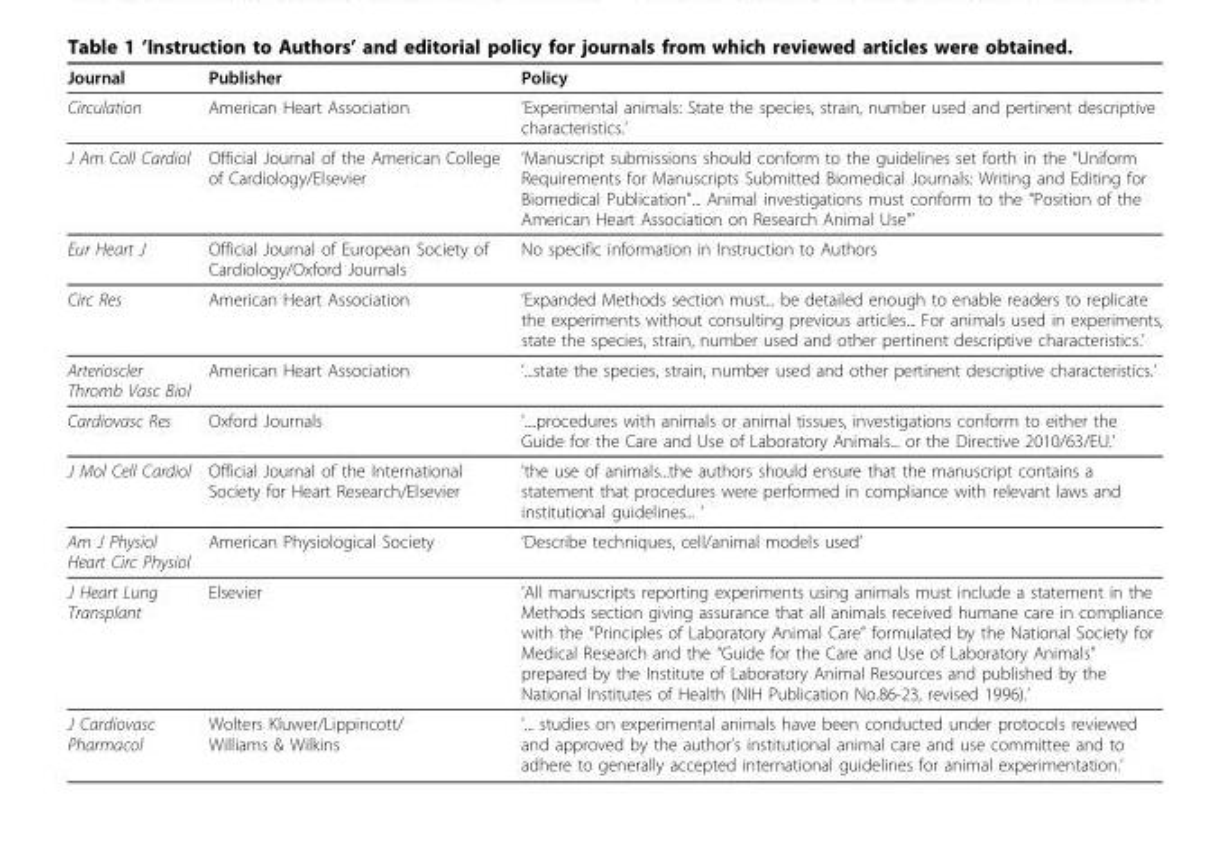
<table><thead><tr><td>Journal</td><td>Publisher</td><td>Policy</td></tr></thead><tbody><tr><td>Circulation</td><td>American Heart Association</td><td>’Experimental animals: State the species, strain, number used and pertinent descriptive characteristics.’</td></tr><tr><td>J Am Coll Cardiol</td><td>Official Journal of the American College of Cardiology/Elsevier</td><td>’Manuscript submissions should conform to the guidelines set forth in the “Uniform Requirements for Manuscripts Submitted Biomedical Journals: Writing and Editing for Biomedical Publication”... Animal investigations must conform to the “Position of the American Heart Association on Research Animal Use&quot;’</td></tr><tr><td>Eur Heart J</td><td>Official Journal of European Society of Cardiology/Oxford Journals</td><td>No specific information in Instruction to Authors</td></tr><tr><td>Circ Res</td><td>American Heart Association</td><td>’Expanded Methods section must... be detailed enough to enable readers to replicate the experiments without consulting previous articles... For animals used in experiments, state the species, strain, number used and other pertinent descriptive characteristics.’</td></tr><tr><td>Arterioscler Thromb Vasc Biol</td><td>American Heart Association</td><td>’...state the species, strain, number used and other pertinent descriptive characteristics.’</td></tr><tr><td>Cardiovasc Res</td><td>Oxford Journals</td><td>’....procedures with animals or animal tissues, investigations conform to either the Guide for the Care and Use of Laboratory Animals... or the Directive 2010/63/EU.’</td></tr><tr><td>J Mol Cell Cardiol</td><td>Official Journal of the International Society for Heart Research/Elsevier</td><td>’the use of animals...the authors should ensure that the manuscript contains a statement that procedures were performed in compliance with relevant laws and institutional guidelines... ‘</td></tr><tr><td>Am J Physiol Heart Circ Physiol</td><td>American Physiological Society</td><td>’Describe techniques, cell/animal models used’</td></tr><tr><td>J Heart Lung Transplant</td><td>Elsevier</td><td>’All manuscripts reporting experiments using animals must include a statement in the Methods section giving assurance that all animals received humane care in compliance with the “Principles of Laboratory Animal Care” formulated by the National Society for Medical Research and the “Guide for the Care and Use of Laboratory Animals” prepared by the Institute of Laboratory Animal Resources and published by the National Institutes of Health (NIH Publication No.86-23, revised 1996).’</td></tr><tr><td>J Cardiovasc Pharmacol</td><td>Wolters Kluwer/Lippincott/ Williams &amp; Wilkins</td><td>’... studies on experimental animals have been conducted under protocols reviewed and approved by the author’s institutional animal care and use committee and to adhere to generally accepted international guidelines for animal experimentation.’</td></tr></tbody></table>